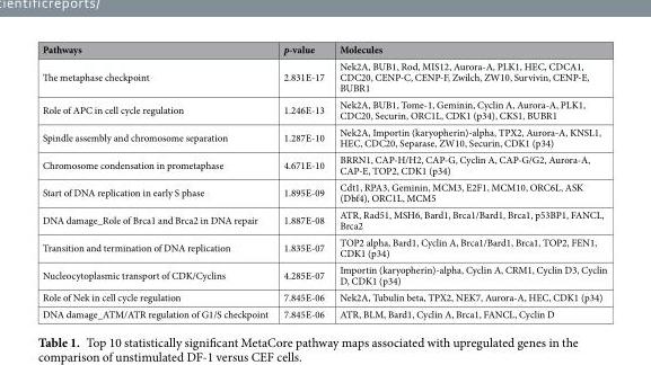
<table><thead><tr><td>Pathways</td><td>p-value</td><td>Molecules</td></tr></thead><tbody><tr><td>The metaphase checkpoint</td><td>2.831E-17</td><td>Nek2A, BUB1, Rod, MIS12, Aurora-A, PLK1, HEC, CDCA1, CDC20, CENP-C, CENP-F, Zwilch, ZW10, Survivin, CENP-E, BUBR1</td></tr><tr><td>Role of APC in cell cycle regulation</td><td>1.246E-13</td><td>Nek2A, BUB1, Tome-1, Geminin, Cyclin A, Aurora-A, PLK1, CDC20, Securin, ORC1L, CDK1 (p34), CKS1, BUBR1</td></tr><tr><td>Spindle assembly and chromosome separation</td><td>1.287E-10</td><td>Nek2A, Importin (karyopherin)-alpha, TPX2, Aurora-A, KNSL1, HEC, CDC20, Separase, ZW10, Securin, CDK1 (p34)</td></tr><tr><td>Chromosome condensation in prometaphase</td><td>4.671E-10</td><td>BRRN1, CAP-H/H2, CAP-G, Cyclin A, CAP-G/G2, Aurora-A, CAP-E, TOP2, CDK1 (p34)</td></tr><tr><td>Start of DNA replication in early S phase</td><td>1.895E-09</td><td>Cdt1, RPA3, Geminin, MCM3, E2F1, MCM10, ORC6L, ASK (Dbf4), ORC1L, MCM5</td></tr><tr><td>DNA damage_Role of Brca1 and Brca2 in DNA repair</td><td>1.887E-08</td><td>ATR, Rad51, MSH6, Bard1, Brca1/Bard1, Brca1, p53BP1, FANCL, Brca2</td></tr><tr><td>Transition and termination of DNA replication</td><td>1.835E-07</td><td>TOP2 alpha, Bard1, Cyclin A, Brca1/Bard1, Brca1, TOP2, FEN1, CDK1 (p34)</td></tr><tr><td>Nucleocytoplasmic transport of CDK/Cyclins</td><td>4.285E-07</td><td>Importin (karyopherin)-alpha, Cyclin A, CRM1, Cyclin D3, Cyclin D, CDK1 (p34)</td></tr><tr><td>Role of Nek in cell cycle regulation</td><td>7.845E-06</td><td>Nek2A, Tubulin beta, TPX2, NEK7, Aurora-A, HEC, CDK1 (p34)</td></tr><tr><td>DNA damage_ATM/ATR regulation of G1/S checkpoint</td><td>7.845E-06</td><td>ATR, BLM, Bard1, Cyclin A, Brca1, FANCL, Cyclin D</td></tr></tbody></table>